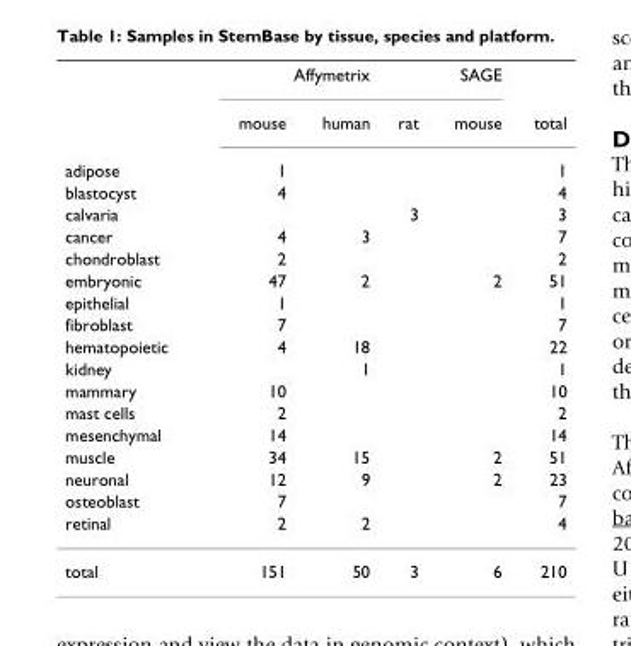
<table><thead><tr><td rowspan="19">adipose blastocyst calvaria cancer chondroblast embryonic epithelial fibroblast hematopoietic kidney mammary mast cells mesenchymal muscle neuronal osteoblast retinal</td><td colspan="2">Affymetrix</td><td colspan="2">SAGE</td><td rowspan="19">total 1 4 3 7 2 51 1 7 22 1 10 2 14 51 23 7 4</td></tr><tr><td rowspan="18">mouse 1 4 4 2 47 1 7 4 10 2 14 34 12 7 2</td><td rowspan="18">human 3 2 18 1 15 9 2</td><td rowspan="18">rat 3</td><td rowspan="18">mouse 2 2 2</td></tr><tr></tr><tr></tr><tr></tr><tr></tr><tr></tr><tr></tr><tr></tr><tr></tr><tr></tr><tr></tr><tr></tr><tr></tr><tr></tr><tr></tr><tr></tr><tr></tr><tr></tr></thead><tbody><tr><td>total</td><td>151</td><td>50</td><td>3</td><td>6</td><td>210</td></tr></tbody></table>